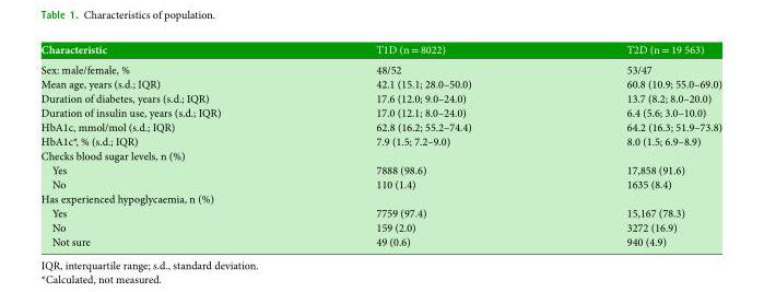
<table><thead><tr><td>Characteristic</td><td>T1D (n = 8022)</td><td>T2D (n = 19 563)</td></tr></thead><tbody><tr><td>Sex: male/female, %</td><td>48/52</td><td>53/47</td></tr><tr><td>Mean age, years (s.d.; IQR)</td><td>42.1 (15.1; 28.0–50.0)</td><td>60.8 (10.9; 55.0–69.0)</td></tr><tr><td>Duration of diabetes, years (s.d.; IQR)</td><td>17.6 (12.0; 9.0–24.0)</td><td>13.7 (8.2; 8.0–20.0)</td></tr><tr><td>Duration of insulin use, years (s.d.; IQR)</td><td>17.0 (12.1; 8.0–24.0)</td><td>6.4 (5.6; 3.0–10.0)</td></tr><tr><td>HbA1c, mmol/mol (s.d.; IQR)</td><td>62.8 (16.2; 55.2–74.4)</td><td>64.2 (16.3; 51.9–73.8)</td></tr><tr><td>HbA1c*, % (s.d.; IQR)</td><td>7.9 (1.5; 7.2–9.0)</td><td>8.0 (1.5; 6.9–8.9)</td></tr><tr><td colspan="3">Checks blood sugar levels, n (%)</td></tr><tr><td>Yes</td><td>7888 (98.6)</td><td>17,858 (91.6)</td></tr><tr><td>No</td><td>110 (1.4)</td><td>1635 (8.4)</td></tr><tr><td colspan="3">Has experienced hypoglycaemia, n (%)</td></tr><tr><td>Yes</td><td>7759 (97.4)</td><td>15,167 (78.3)</td></tr><tr><td>No</td><td>159 (2.0)</td><td>3272 (16.9)</td></tr><tr><td>Not sure</td><td>49 (0.6)</td><td>940 (4.9)</td></tr></tbody></table>